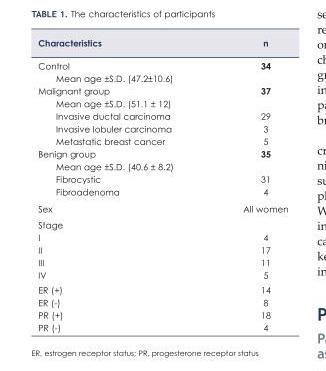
<table><thead><tr><td>Characteristics</td><td>n</td></tr></thead><tbody><tr><td>Control</td><td>34</td></tr><tr><td colspan="2">Mean age ±S.D. (47.2±10.6)</td></tr><tr><td>Malignant group</td><td>37</td></tr><tr><td colspan="2">Mean age ±S.D. (51.1 ± 12)</td></tr><tr><td>Invasive ductal carcinoma</td><td>29</td></tr><tr><td>Invasive lobuler carcinoma</td><td>3</td></tr><tr><td>Metastatic breast cancer</td><td>5</td></tr><tr><td>Benign group</td><td>35</td></tr><tr><td colspan="2">Mean age ±S.D. (40.6 ± 8.2)</td></tr><tr><td>Fibrocystic</td><td>31</td></tr><tr><td>Fibroadenoma</td><td>4</td></tr><tr><td>Sex</td><td>All women</td></tr><tr><td colspan="2">Stage</td></tr><tr><td>I</td><td>4</td></tr><tr><td>III</td><td>11</td></tr><tr><td>II</td><td>17</td></tr><tr><td>IV</td><td>5</td></tr><tr><td>ER (+)</td><td>14</td></tr><tr><td>ER (-)</td><td>8</td></tr><tr><td>PR (+)</td><td>18</td></tr><tr><td>PR (-)</td><td>4</td></tr></tbody></table>